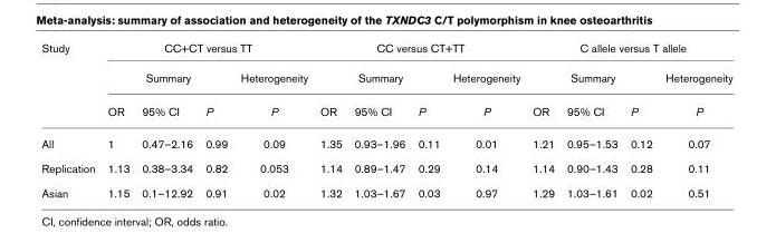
<table><thead><tr><td rowspan="3">Study</td><td colspan="4">CC+CT versus TT</td><td colspan="4">CC versus CT+TT</td><td colspan="4">C allele versus T allele</td></tr><tr><td colspan="3">Summary</td><td rowspan="2">Heterogeneity P</td><td colspan="3">Summary</td><td rowspan="2">Heterogeneity P</td><td colspan="3">Summary</td><td rowspan="2">Heterogeneity P</td></tr><tr><td>OR</td><td>95% CI</td><td>P</td><td>OR</td><td>95% CI</td><td>P</td><td>OR</td><td>95% CI</td><td>P</td></tr></thead><tbody><tr><td>All</td><td>1</td><td>0.47–2.16</td><td>0.99</td><td>0.09</td><td>1.35</td><td>0.93–1.96</td><td>0.11</td><td>0.01</td><td>1.21</td><td>0.95–1.53</td><td>0.12</td><td>0.07</td></tr><tr><td>Replication</td><td>1.13</td><td>0.38–3.34</td><td>0.82</td><td>0.053</td><td>1.14</td><td>0.89–1.47</td><td>0.29</td><td>0.14</td><td>1.14</td><td>0.90–1.43</td><td>0.28</td><td>0.11</td></tr><tr><td>Asian</td><td>1.15</td><td>0.1–12.92</td><td>0.91</td><td>0.02</td><td>1.32</td><td>1.03–1.67</td><td>0.03</td><td>0.97</td><td>1.29</td><td>1.03–1.61</td><td>0.02</td><td>0.51</td></tr></tbody></table>